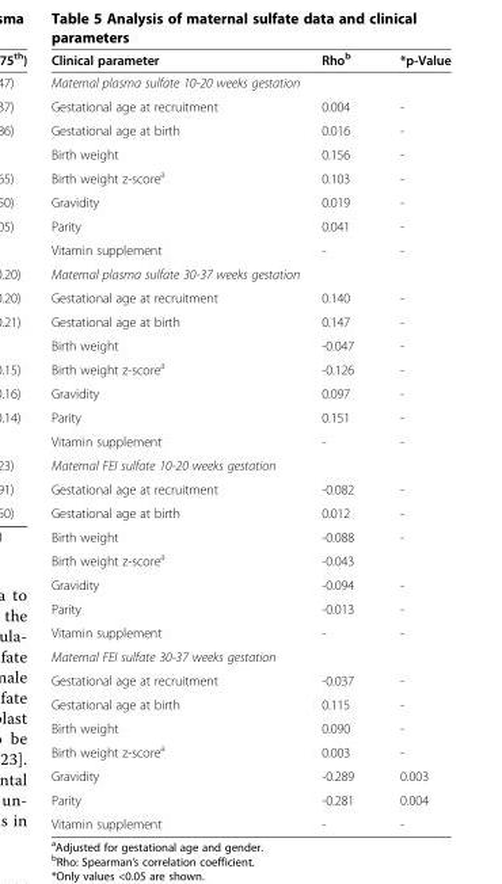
<table><thead><tr><td>Clinical parameter</td><td>Rho<sup>b</sup></td><td>*p-Value</td></tr></thead><tbody><tr><td colspan="3">Maternal plasma sulfate 10-20 weeks gestation</td></tr><tr><td>Gestational age at recruitment</td><td>0.004</td><td>-</td></tr><tr><td>Gestational age at birth</td><td>0.016</td><td>-</td></tr><tr><td>Birth weight</td><td>0.156</td><td>-</td></tr><tr><td>Birth weight z-score<sup>a</sup></td><td>0.103</td><td>-</td></tr><tr><td>Gravidity</td><td>0.019</td><td>-</td></tr><tr><td>Parity</td><td>0.041</td><td>-</td></tr><tr><td>Vitamin supplement</td><td>-</td><td>-</td></tr><tr><td colspan="3">Maternal plasma sulfate 30-37 weeks gestation</td></tr><tr><td>Gestational age at recruitment</td><td>0.140</td><td>-</td></tr><tr><td>Gestational age at birth</td><td>0.147</td><td>-</td></tr><tr><td>Birth weight</td><td>-0.047</td><td>-</td></tr><tr><td>Birth weight z-score<sup>a</sup></td><td>-0.126</td><td>-</td></tr><tr><td>Gravidity</td><td>0.097</td><td>-</td></tr><tr><td>Parity</td><td>0.151</td><td>-</td></tr><tr><td>Vitamin supplement</td><td>-</td><td>-</td></tr><tr><td colspan="3">Maternal FEI sulfate 10-20 weeks gestation</td></tr><tr><td>Gestational age at recruitment</td><td>-0.082</td><td>-</td></tr><tr><td>Gestational age at birth</td><td>0.012</td><td>-</td></tr><tr><td>Birth weight</td><td>-0.088</td><td>-</td></tr><tr><td>Birth weight z-score<sup>a</sup></td><td>-0.043</td><td></td></tr><tr><td>Gravidity</td><td>-0.094</td><td>-</td></tr><tr><td>Parity</td><td>-0.013</td><td>-</td></tr><tr><td>Vitamin supplement</td><td>-</td><td>-</td></tr><tr><td colspan="3">Maternal FEI sulfate 30-37 weeks gestation</td></tr><tr><td>Gestational age at recruitment</td><td>-0.037</td><td>-</td></tr><tr><td>Gestational age at birth</td><td>0.115</td><td>-</td></tr><tr><td>Birth weight</td><td>0.090</td><td>-</td></tr><tr><td>Birth weight z-score<sup>a</sup></td><td>0.003</td><td>-</td></tr><tr><td>Gravidity</td><td>-0.289</td><td>0.003</td></tr><tr><td>Parity</td><td>-0.281</td><td>0.004</td></tr><tr><td>Vitamin supplement</td><td>-</td><td>-</td></tr></tbody></table>